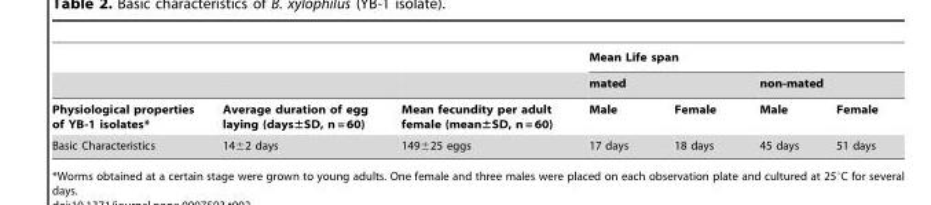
<table><thead><tr><td rowspan="3">Physiological properties of YB-1 isolates*</td><td rowspan="3">Average duration of egg laying (days±SD, n = 60)</td><td rowspan="3">Mean fecundity per adult female (mean±SD, n = 60)</td><td colspan="4">Mean Life span</td></tr><tr><td colspan="2">mated</td><td colspan="2">non-mated</td></tr><tr><td>Male</td><td>Female</td><td>Male</td><td>Female</td></tr></thead><tbody><tr><td>Basic Characteristics</td><td>14±2 days</td><td>149±25 eggs</td><td>17 days</td><td>18 days</td><td>45 days</td><td>51 days</td></tr></tbody></table>